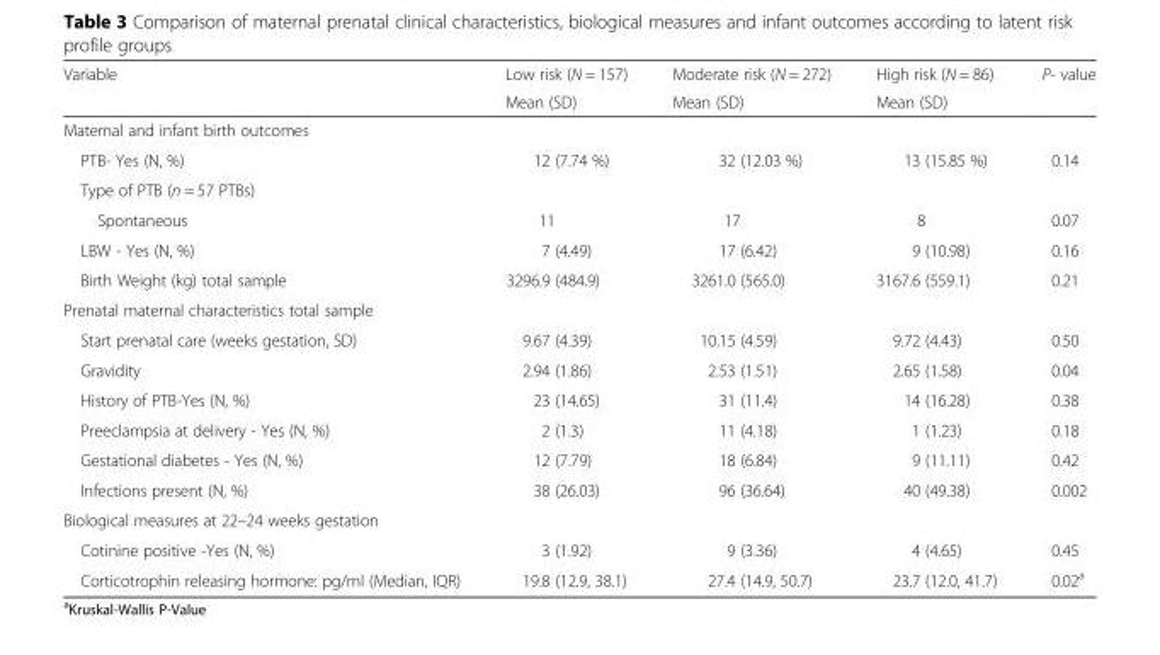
<table><thead><tr><td rowspan="2">Variable</td><td rowspan="2">Low risk (N = 157) Mean (SD)</td><td rowspan="2">Moderate risk (N = 272) Mean (SD)</td><td rowspan="2">High risk (N = 86) Mean (SD)</td><td rowspan="2">P- value</td></tr><tr></tr></thead><tbody><tr><td colspan="5">Maternal and infant birth outcomes</td></tr><tr><td>PTB- Yes (N, %)</td><td>12 (7.74 %)</td><td>32 (12.03 %)</td><td>13 (15.85 %)</td><td>0.14</td></tr><tr><td colspan="5">Type of PTB (n = 57 PTBs)</td></tr><tr><td>Spontaneous</td><td>11</td><td>17</td><td>8</td><td>0.07</td></tr><tr><td>LBW - Yes (N, %)</td><td>7 (4.49)</td><td>17 (6.42)</td><td>9 (10.98)</td><td>0.16</td></tr><tr><td>Birth Weight (kg) total sample</td><td>3296.9 (484.9)</td><td>3261.0 (565.0)</td><td>3167.6 (559.1)</td><td>0.21</td></tr><tr><td colspan="5">Prenatal maternal characteristics total sample</td></tr><tr><td>Start prenatal care (weeks gestation, SD)</td><td>9.67 (4.39)</td><td>10.15 (4.59)</td><td>9.72 (4.43)</td><td>0.50</td></tr><tr><td>Gravidity</td><td>2.94 (1.86)</td><td>2.53 (1.51)</td><td>2.65 (1.58)</td><td>0.04</td></tr><tr><td>History of PTB-Yes (N, %)</td><td>23 (14.65)</td><td>31 (11.4)</td><td>14 (16.28)</td><td>0.38</td></tr><tr><td>Preeclampsia at delivery - Yes (N, %)</td><td>2 (1.3)</td><td>11 (4.18)</td><td>1 (1.23)</td><td>0.18</td></tr><tr><td>Gestational diabetes - Yes (N, %)</td><td>12 (7.79)</td><td>18 (6.84)</td><td>9 (11.11)</td><td>0.42</td></tr><tr><td>Infections present (N, %)</td><td>38 (26.03)</td><td>96 (36.64)</td><td>40 (49.38)</td><td>0.002</td></tr><tr><td colspan="5">Biological measures at 22–24 weeks gestation</td></tr><tr><td>Cotinine positive -Yes (N, %)</td><td>3 (1.92)</td><td>9 (3.36)</td><td>4 (4.65)</td><td>0.45</td></tr><tr><td>Corticotrophin releasing hormone: pg/ml (Median, IQR)</td><td>19.8 (12.9, 38.1)</td><td>27.4 (14.9, 50.7)</td><td>23.7 (12.0, 41.7)</td><td>0.02<sup>a</sup></td></tr></tbody></table>